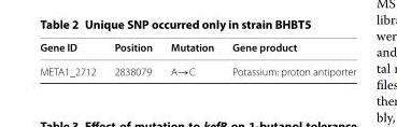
<table><thead><tr><td>Gene ID</td><td>Position</td><td>Mutation</td><td>Gene product</td></tr></thead><tbody><tr><td>META1_2712</td><td>2838079</td><td>A→C</td><td>Potassium: proton antiporter</td></tr></tbody></table>